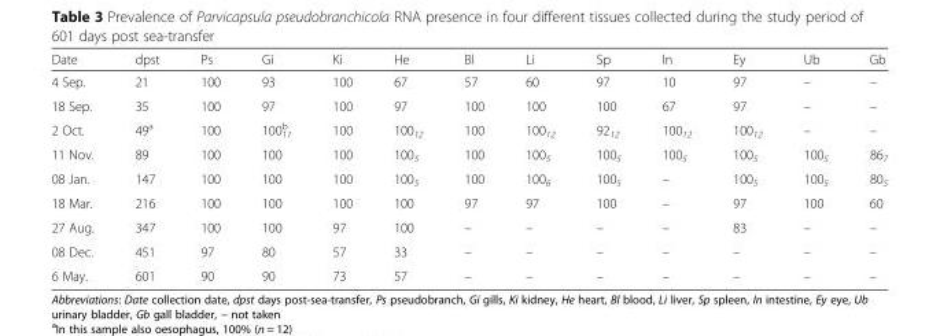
<table><thead><tr><td>Date</td><td>dpst</td><td>Ps</td><td>Gi</td><td>Ki</td><td>He</td><td>Bl</td><td>Li</td><td>Sp</td><td>In</td><td>Ey</td><td>Ub</td><td>Gb</td></tr></thead><tbody><tr><td>4 Sep.</td><td>21</td><td>100</td><td>93</td><td>100</td><td>67</td><td>57</td><td>60</td><td>97</td><td>10</td><td>97</td><td>–</td><td>–</td></tr><tr><td>18 Sep.</td><td>35</td><td>100</td><td>97</td><td>100</td><td>97</td><td>100</td><td>100</td><td>100</td><td>67</td><td>97</td><td>–</td><td>–</td></tr><tr><td>2 Oct.</td><td>49<sup>a</sup></td><td>100</td><td>100<sub>11</sub> <sup>b</sup></td><td>100</td><td>100<sub>12</sub></td><td>100</td><td>100<sub>12</sub></td><td>92<sub>12</sub></td><td>100<sub>12</sub></td><td>100<sub>12</sub></td><td>–</td><td>–</td></tr><tr><td>11 Nov.</td><td>89</td><td>100</td><td>100</td><td>100</td><td>100<sub>5</sub></td><td>100</td><td>100<sub>5</sub></td><td>100<sub>5</sub></td><td>100<sub>5</sub></td><td>100<sub>5</sub></td><td>100<sub>5</sub></td><td>86<sub>7</sub></td></tr><tr><td>08 Jan.</td><td>147</td><td>100</td><td>100</td><td>100</td><td>100<sub>5</sub></td><td>100</td><td>100<sub>6</sub></td><td>100<sub>5</sub></td><td>–</td><td>100<sub>5</sub></td><td>100<sub>5</sub></td><td>80<sub>5</sub></td></tr><tr><td>18 Mar.</td><td>216</td><td>100</td><td>100</td><td>100</td><td>100</td><td>97</td><td>97</td><td>100</td><td>–</td><td>97</td><td>100</td><td>60</td></tr><tr><td>27 Aug.</td><td>347</td><td>100</td><td>100</td><td>97</td><td>100</td><td>–</td><td>–</td><td>–</td><td>–</td><td>83</td><td>–</td><td>–</td></tr><tr><td>08 Dec.</td><td>451</td><td>97</td><td>80</td><td>57</td><td>33</td><td>–</td><td>–</td><td>–</td><td>–</td><td>–</td><td>–</td><td>–</td></tr><tr><td>6 May.</td><td>601</td><td>90</td><td>90</td><td>73</td><td>57</td><td>–</td><td>–</td><td>–</td><td>–</td><td>–</td><td>–</td><td>–</td></tr></tbody></table>